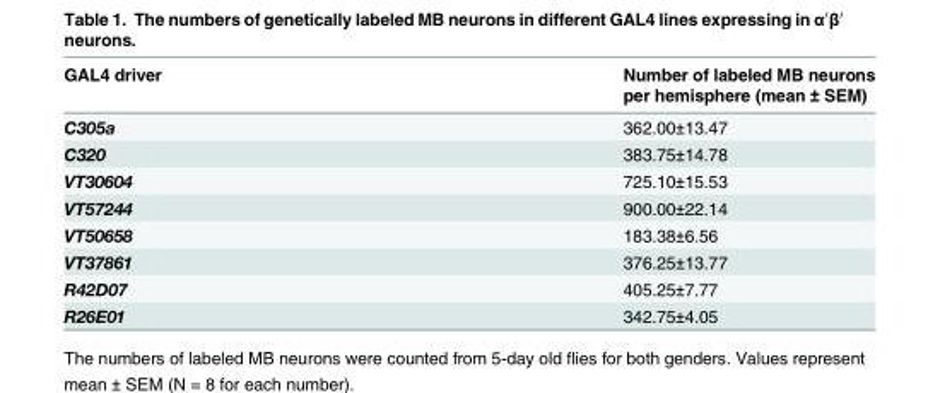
<table><thead><tr><td>GAL4 driver</td><td>Number of labeled MB neurons per hemisphere (mean ± SEM)</td></tr></thead><tbody><tr><td>C305a</td><td>362.00±13.47</td></tr><tr><td>C320</td><td>383.75±14.78</td></tr><tr><td>VT30604</td><td>725.10±15.53</td></tr><tr><td>VT57244</td><td>900.00±22.14</td></tr><tr><td>VT50658</td><td>183.38±6.56</td></tr><tr><td>VT37861</td><td>376.25±13.77</td></tr><tr><td>R42D07</td><td>405.25±7.77</td></tr><tr><td>R26E01</td><td>342.75±4.05</td></tr></tbody></table>